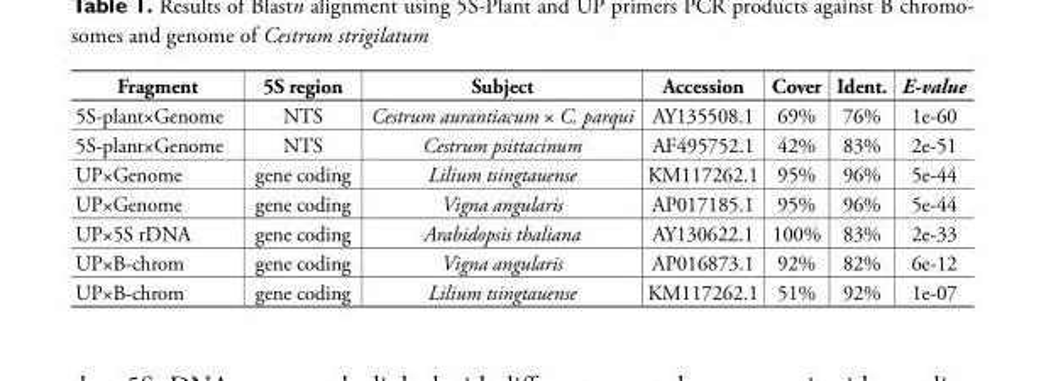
<table><thead><tr><td>Fragment</td><td>5S region</td><td>Subject</td><td>Accession</td><td>Cover</td><td>Ident.</td><td>E-value</td></tr></thead><tbody><tr><td>5S-plant×Genome</td><td>NTS</td><td>Cestrum aurantiacum × C. parqui</td><td>AY135508.1</td><td>69%</td><td>76%</td><td>1e-60</td></tr><tr><td>5S-plant×Genome</td><td>NTS</td><td>Cestrum psittacinum</td><td>AF495752.1</td><td>42%</td><td>83%</td><td>2e-51</td></tr><tr><td>UP×Genome</td><td>gene coding</td><td>Lilium tsingtauense</td><td>KM117262.1</td><td>95%</td><td>96%</td><td>5e-44</td></tr><tr><td>UP×Genome</td><td>gene coding</td><td>Vigna angularis</td><td>AP017185.1</td><td>95%</td><td>96%</td><td>5e-44</td></tr><tr><td>UP×5S rDNA</td><td>gene coding</td><td>Arabidopsis thaliana</td><td>AY130622.1</td><td>100%</td><td>83%</td><td>2e-33</td></tr><tr><td>UP×B-chrom</td><td>gene coding</td><td>Vigna angularis</td><td>AP016873.1</td><td>92%</td><td>82%</td><td>6e-12</td></tr><tr><td>UP×B-chrom</td><td>gene coding</td><td>Lilium tsingtauense</td><td>KM117262.1</td><td>51%</td><td>92%</td><td>1e-07</td></tr></tbody></table>